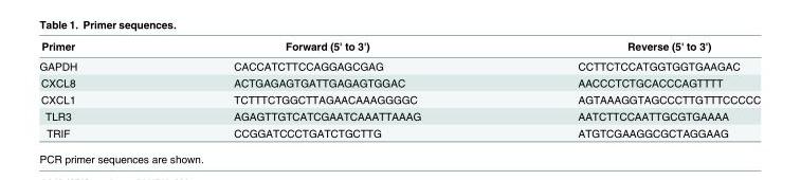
<table><thead><tr><td>Primer</td><td>Forward (5&#x27; to 3&#x27;)</td><td>Reverse (5&#x27; to 3&#x27;)</td></tr></thead><tbody><tr><td>GAPDH</td><td>CACCATCTTCCAGGAGCGAG</td><td>CCTTCTCCATGGTGGTGAAGAC</td></tr><tr><td>CXCL8</td><td>ACTGAGAGTGATTGAGAGTGGAC</td><td>AACCCTCTGCACCCAGTTTT</td></tr><tr><td>CXCL1</td><td>TCTTTCTGGCTTAGAACAAAGGGGC</td><td>AGTAAAGGTAGCCCTTGTTTCCCCC</td></tr><tr><td>TLR3</td><td>AGAGTTGTCATCGAATCAAATTAAAG</td><td>AATCTTCCAATTGCGTGAAAA</td></tr><tr><td>TRIF</td><td>CCGGATCCCTGATCTGCTTG</td><td>ATGTCGAAGGCGCTAGGAAG</td></tr></tbody></table>